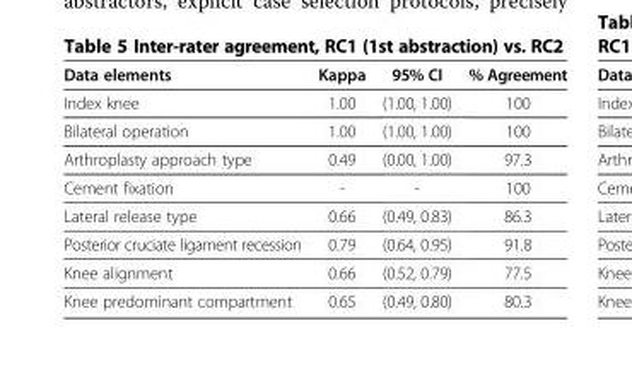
<table><thead><tr><td>Data elements</td><td>Kappa</td><td>95% CI</td><td>% Agreement</td></tr></thead><tbody><tr><td>Index knee</td><td>1.00</td><td>(1.00, 1.00)</td><td>100</td></tr><tr><td>Bilateral operation</td><td>1.00</td><td>(1.00, 1.00)</td><td>100</td></tr><tr><td>Arthroplasty approach type</td><td>0.49</td><td>(0.00, 1.00)</td><td>97.3</td></tr><tr><td>Cement fixation</td><td>-</td><td>-</td><td>100</td></tr><tr><td>Lateral release type</td><td>0.66</td><td>(0.49, 0.83)</td><td>86.3</td></tr><tr><td>Posterior cruciate ligament recession</td><td>0.79</td><td>(0.64, 0.95)</td><td>91.8</td></tr><tr><td>Knee alignment</td><td>0.66</td><td>(0.52, 0.79)</td><td>77.5</td></tr><tr><td>Knee predominant compartment</td><td>0.65</td><td>(0.49, 0.80)</td><td>80.3</td></tr></tbody></table>